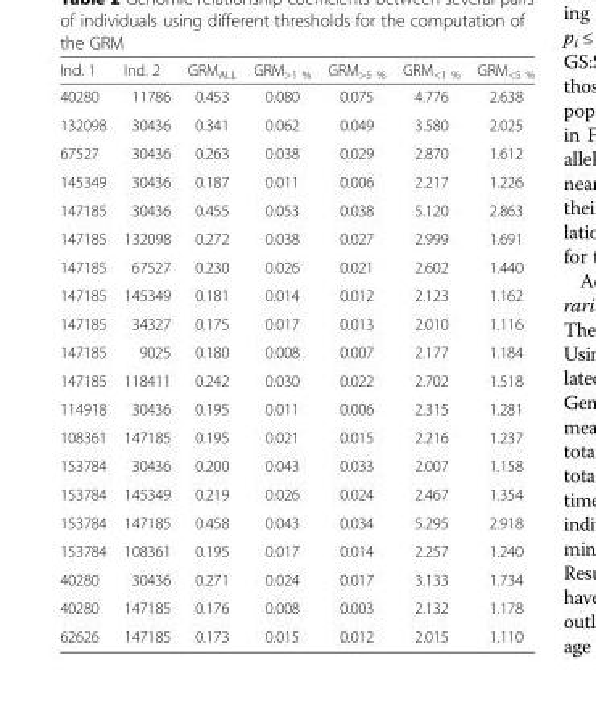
<table><thead><tr><td>Ind. 1</td><td>Ind. 2</td><td>GRM<sub>ALL</sub></td><td>GRM<sub>&gt;1 %</sub></td><td>GRM<sub>&gt;5 %</sub></td><td>GRM<sub>&lt;1 %</sub></td><td>GRM<sub>&lt;5 %</sub></td></tr></thead><tbody><tr><td>40280</td><td>11786</td><td>0.453</td><td>0.080</td><td>0.075</td><td>4.776</td><td>2.638</td></tr><tr><td>132098</td><td>30436</td><td>0.341</td><td>0.062</td><td>0.049</td><td>3.580</td><td>2.025</td></tr><tr><td>67527</td><td>30436</td><td>0.263</td><td>0.038</td><td>0.029</td><td>2.870</td><td>1.612</td></tr><tr><td>145349</td><td>30436</td><td>0.187</td><td>0.011</td><td>0.006</td><td>2.217</td><td>1.226</td></tr><tr><td>147185</td><td>30436</td><td>0.455</td><td>0.053</td><td>0.038</td><td>5.120</td><td>2.863</td></tr><tr><td>147185</td><td>132098</td><td>0.272</td><td>0.038</td><td>0.027</td><td>2.999</td><td>1.691</td></tr><tr><td>147185</td><td>67527</td><td>0.230</td><td>0.026</td><td>0.021</td><td>2.602</td><td>1.440</td></tr><tr><td>147185</td><td>145349</td><td>0.181</td><td>0.014</td><td>0.012</td><td>2.123</td><td>1.162</td></tr><tr><td>147185</td><td>34327</td><td>0.175</td><td>0.017</td><td>0.013</td><td>2.010</td><td>1.116</td></tr><tr><td>147185</td><td>9025</td><td>0.180</td><td>0.008</td><td>0.007</td><td>2.177</td><td>1.184</td></tr><tr><td>147185</td><td>118411</td><td>0.242</td><td>0.030</td><td>0.022</td><td>2.702</td><td>1.518</td></tr><tr><td>114918</td><td>30436</td><td>0.195</td><td>0.011</td><td>0.006</td><td>2.315</td><td>1.281</td></tr><tr><td>108361</td><td>147185</td><td>0.195</td><td>0.021</td><td>0.015</td><td>2.216</td><td>1.237</td></tr><tr><td>153784</td><td>30436</td><td>0.200</td><td>0.043</td><td>0.033</td><td>2.007</td><td>1.158</td></tr><tr><td>153784</td><td>145349</td><td>0.219</td><td>0.026</td><td>0.024</td><td>2.467</td><td>1.354</td></tr><tr><td>153784</td><td>147185</td><td>0.458</td><td>0.043</td><td>0.034</td><td>5.295</td><td>2.918</td></tr><tr><td>153784</td><td>108361</td><td>0.195</td><td>0.017</td><td>0.014</td><td>2.257</td><td>1.240</td></tr><tr><td>40280</td><td>30436</td><td>0.271</td><td>0.024</td><td>0.017</td><td>3.133</td><td>1.734</td></tr><tr><td>40280</td><td>147185</td><td>0.176</td><td>0.008</td><td>0.003</td><td>2.132</td><td>1.178</td></tr><tr><td>62626</td><td>147185</td><td>0.173</td><td>0.015</td><td>0.012</td><td>2.015</td><td>1.110</td></tr></tbody></table>